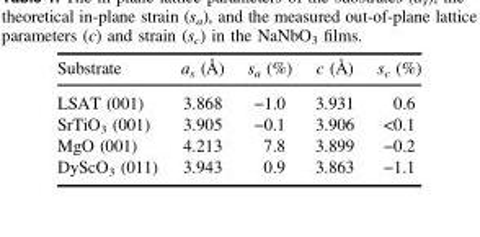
<table><thead><tr><td>Substrate</td><td>a<sub>s</sub> (Å)</td><td>s<sub>a</sub> (%)</td><td>c (Å)</td><td>s<sub>c</sub> (%)</td></tr></thead><tbody><tr><td>LSAT (001)</td><td>3.868</td><td>−1.0</td><td>3.931</td><td>0.6</td></tr><tr><td>SrTiO<sub>3</sub> (001)</td><td>3.905</td><td>−0.1</td><td>3.906</td><td>&lt;0.1</td></tr><tr><td>MgO (001)</td><td>4.213</td><td>7.8</td><td>3.899</td><td>−0.2</td></tr><tr><td>DyScO<sub>3</sub> (011)</td><td>3.943</td><td>0.9</td><td>3.863</td><td>−1.1</td></tr></tbody></table>